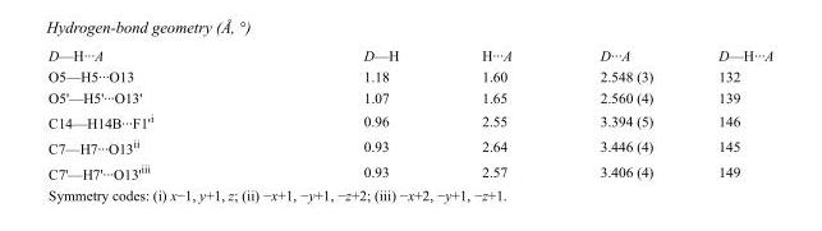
<table><tbody><tr><td>D—H···A</td><td>D—H</td><td>H···A</td><td>D···A</td><td>D—H···A</td></tr><tr><td>O5—H5···O13</td><td>1.18</td><td>1.60</td><td>2.548 (3)</td><td>132</td></tr><tr><td>O5&#x27;—H5&#x27;···O13&#x27;</td><td>1.07</td><td>1.65</td><td>2.560 (4)</td><td>139</td></tr><tr><td>C14—H14B···F1&#x27;<sup>i</sup></td><td>0.96</td><td>2.55</td><td>3.394 (5)</td><td>146</td></tr><tr><td>C7—H7···O13<sup>ii</sup></td><td>0.93</td><td>2.64</td><td>3.446 (4)</td><td>145</td></tr><tr><td>C7&#x27;—H7&#x27;···O13&#x27;<sup>iii</sup></td><td>0.93</td><td>2.57</td><td>3.406 (4)</td><td>149</td></tr></tbody></table>